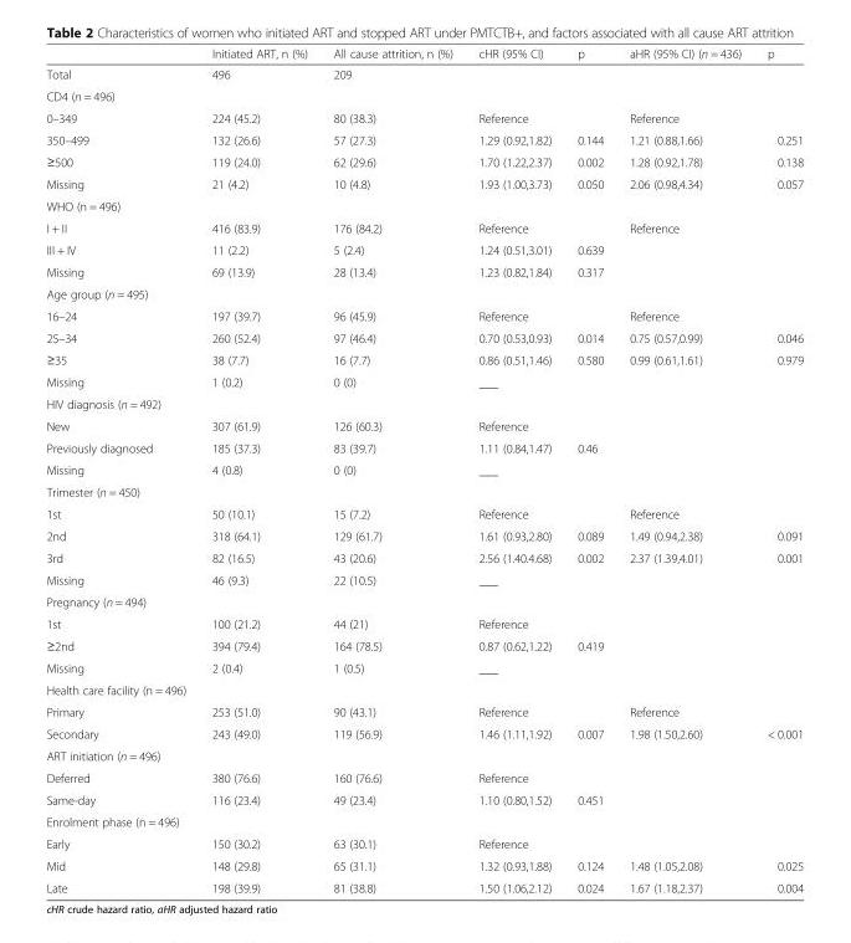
<table><thead><tr><td></td><td>Initiated ART, n (%)</td><td>All cause attrition, n (%)</td><td>cHR (95% CI)</td><td>p</td><td>aHR (95% CI) (n = 436)</td><td>p</td></tr></thead><tbody><tr><td>Total</td><td>496</td><td>209</td><td></td><td></td><td></td><td></td></tr><tr><td colspan="7">CD4 (n = 496)</td></tr><tr><td>0–349</td><td>224 (45.2)</td><td>80 (38.3)</td><td>Reference</td><td></td><td>Reference</td><td></td></tr><tr><td>350–499</td><td>132 (26.6)</td><td>57 (27.3)</td><td>1.29 (0.92,1.82)</td><td>0.144</td><td>1.21 (0.88,1.66)</td><td>0.251</td></tr><tr><td>≥500</td><td>119 (24.0)</td><td>62 (29.6)</td><td>1.70 (1.22,2.37)</td><td>0.002</td><td>1.28 (0.92,1.78)</td><td>0.138</td></tr><tr><td>Missing</td><td>21 (4.2)</td><td>10 (4.8)</td><td>1.93 (1.00,3.73)</td><td>0.050</td><td>2.06 (0.98,4.34)</td><td>0.057</td></tr><tr><td colspan="7">WHO (n = 496)</td></tr><tr><td>I + II</td><td>416 (83.9)</td><td>176 (84.2)</td><td>Reference</td><td></td><td>Reference</td><td></td></tr><tr><td>III + IV</td><td>11 (2.2)</td><td>5 (2.4)</td><td>1.24 (0.51,3.01)</td><td>0.639</td><td></td><td></td></tr><tr><td>Missing</td><td>69 (13.9)</td><td>28 (13.4)</td><td>1.23 (0.82,1.84)</td><td>0.317</td><td></td><td></td></tr><tr><td colspan="7">Age group (n = 495)</td></tr><tr><td>16–24</td><td>197 (39.7)</td><td>96 (45.9)</td><td>Reference</td><td></td><td>Reference</td><td></td></tr><tr><td>25–34</td><td>260 (52.4)</td><td>97 (46.4)</td><td>0.70 (0.53,0.93)</td><td>0.014</td><td>0.75 (0.57,0.99)</td><td>0.046</td></tr><tr><td>≥35</td><td>38 (7.7)</td><td>16 (7.7)</td><td>0.86 (0.51,1.46)</td><td>0.580</td><td>0.99 (0.61,1.61)</td><td>0.979</td></tr><tr><td>Missing</td><td>1 (0.2)</td><td>0 (0)</td><td>___</td><td></td><td></td><td></td></tr><tr><td colspan="7">HIV diagnosis (n = 492)</td></tr><tr><td>New</td><td>307 (61.9)</td><td>126 (60.3)</td><td>Reference</td><td></td><td></td><td></td></tr><tr><td>Previously diagnosed</td><td>185 (37.3)</td><td>83 (39.7)</td><td>1.11 (0.84,1.47)</td><td>0.46</td><td></td><td></td></tr><tr><td>Missing</td><td>4 (0.8)</td><td>0 (0)</td><td>___</td><td></td><td></td><td></td></tr><tr><td colspan="7">Trimester (n = 450)</td></tr><tr><td>1st</td><td>50 (10.1)</td><td>15 (7.2)</td><td>Reference</td><td></td><td>Reference</td><td></td></tr><tr><td>2nd</td><td>318 (64.1)</td><td>129 (61.7)</td><td>1.61 (0.93,2.80)</td><td>0.089</td><td>1.49 (0.94,2.38)</td><td>0.091</td></tr><tr><td>3rd</td><td>82 (16.5)</td><td>43 (20.6)</td><td>2.56 (1.40.4.68)</td><td>0.002</td><td>2.37 (1.39,4.01)</td><td>0.001</td></tr><tr><td>Missing</td><td>46 (9.3)</td><td>22 (10.5)</td><td>___</td><td></td><td></td><td></td></tr><tr><td colspan="7">Pregnancy (n = 494)</td></tr><tr><td>1st</td><td>100 (21.2)</td><td>44 (21)</td><td>Reference</td><td></td><td></td><td></td></tr><tr><td>≥2nd</td><td>394 (79.4)</td><td>164 (78.5)</td><td>0.87 (0.62,1.22)</td><td>0.419</td><td></td><td></td></tr><tr><td>Missing</td><td>2 (0.4)</td><td>1 (0.5)</td><td>___</td><td></td><td></td><td></td></tr><tr><td colspan="7">Health care facility (n = 496)</td></tr><tr><td>Primary</td><td>253 (51.0)</td><td>90 (43.1)</td><td>Reference</td><td></td><td>Reference</td><td></td></tr><tr><td>Secondary</td><td>243 (49.0)</td><td>119 (56.9)</td><td>1.46 (1.11,1.92)</td><td>0.007</td><td>1.98 (1.50,2.60)</td><td>&lt; 0.001</td></tr><tr><td colspan="7">ART initiation (n = 496)</td></tr><tr><td>Deferred</td><td>380 (76.6)</td><td>160 (76.6)</td><td>Reference</td><td></td><td></td><td></td></tr><tr><td>Same-day</td><td>116 (23.4)</td><td>49 (23.4)</td><td>1.10 (0.80,1.52)</td><td>0.451</td><td></td><td></td></tr><tr><td colspan="7">Enrolment phase (n = 496)</td></tr><tr><td>Early</td><td>150 (30.2)</td><td>63 (30.1)</td><td>Reference</td><td></td><td></td><td></td></tr><tr><td>Mid</td><td>148 (29.8)</td><td>65 (31.1)</td><td>1.32 (0.93,1.88)</td><td>0.124</td><td>1.48 (1.05,2.08)</td><td>0.025</td></tr><tr><td>Late</td><td>198 (39.9)</td><td>81 (38.8)</td><td>1.50 (1.06,2.12)</td><td>0.024</td><td>1.67 (1.18,2.37)</td><td>0.004</td></tr></tbody></table>